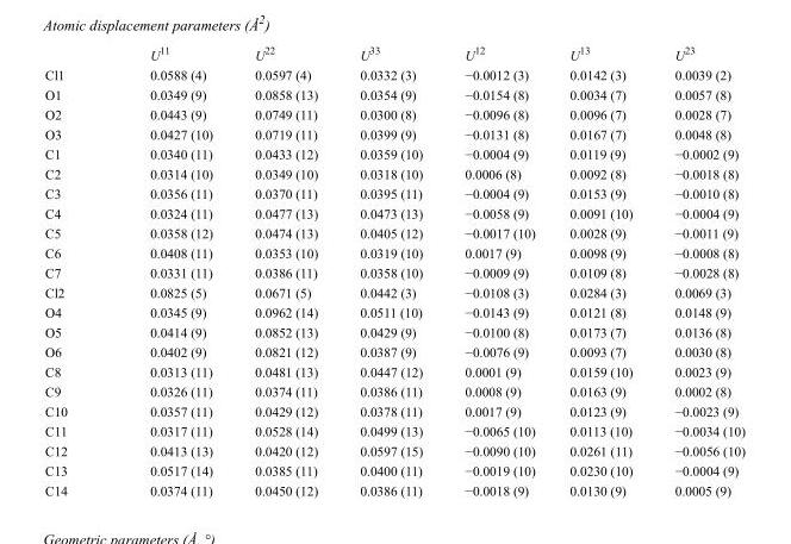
<table><thead><tr><td></td><td>U<sup>11</sup></td><td>U<sup>22</sup></td><td>U<sup>33</sup></td><td>U<sup>12</sup></td><td>U<sup>13</sup></td><td>U<sup>23</sup></td></tr></thead><tbody><tr><td>Cl1</td><td>0.0588 (4)</td><td>0.0597 (4)</td><td>0.0332 (3)</td><td>−0.0012 (3)</td><td>0.0142 (3)</td><td>0.0039 (2)</td></tr><tr><td>O1</td><td>0.0349 (9)</td><td>0.0858 (13)</td><td>0.0354 (9)</td><td>−0.0154 (8)</td><td>0.0034 (7)</td><td>0.0057 (8)</td></tr><tr><td>O2</td><td>0.0443 (9)</td><td>0.0749 (11)</td><td>0.0300 (8)</td><td>−0.0096 (8)</td><td>0.0096 (7)</td><td>0.0028 (7)</td></tr><tr><td>O3</td><td>0.0427 (10)</td><td>0.0719 (11)</td><td>0.0399 (9)</td><td>−0.0131 (8)</td><td>0.0167 (7)</td><td>0.0048 (8)</td></tr><tr><td>C1</td><td>0.0340 (11)</td><td>0.0433 (12)</td><td>0.0359 (10)</td><td>−0.0004 (9)</td><td>0.0119 (9)</td><td>−0.0002 (9)</td></tr><tr><td>C2</td><td>0.0314 (10)</td><td>0.0349 (10)</td><td>0.0318 (10)</td><td>0.0006 (8)</td><td>0.0092 (8)</td><td>−0.0018 (8)</td></tr><tr><td>C3</td><td>0.0356 (11)</td><td>0.0370 (11)</td><td>0.0395 (11)</td><td>−0.0004 (9)</td><td>0.0153 (9)</td><td>−0.0010 (8)</td></tr><tr><td>C4</td><td>0.0324 (11)</td><td>0.0477 (13)</td><td>0.0473 (13)</td><td>−0.0058 (9)</td><td>0.0091 (10)</td><td>−0.0004 (9)</td></tr><tr><td>C5</td><td>0.0358 (12)</td><td>0.0474 (13)</td><td>0.0405 (12)</td><td>−0.0017 (10)</td><td>0.0028 (9)</td><td>−0.0011 (9)</td></tr><tr><td>C6</td><td>0.0408 (11)</td><td>0.0353 (10)</td><td>0.0319 (10)</td><td>0.0017 (9)</td><td>0.0098 (9)</td><td>−0.0008 (8)</td></tr><tr><td>C7</td><td>0.0331 (11)</td><td>0.0386 (11)</td><td>0.0358 (10)</td><td>−0.0009 (9)</td><td>0.0109 (8)</td><td>−0.0028 (8)</td></tr><tr><td>Cl2</td><td>0.0825 (5)</td><td>0.0671 (5)</td><td>0.0442 (3)</td><td>−0.0108 (3)</td><td>0.0284 (3)</td><td>0.0069 (3)</td></tr><tr><td>O4</td><td>0.0345 (9)</td><td>0.0962 (14)</td><td>0.0511 (10)</td><td>−0.0143 (9)</td><td>0.0121 (8)</td><td>0.0148 (9)</td></tr><tr><td>O5</td><td>0.0414 (9)</td><td>0.0852 (13)</td><td>0.0429 (9)</td><td>−0.0100 (8)</td><td>0.0173 (7)</td><td>0.0136 (8)</td></tr><tr><td>O6</td><td>0.0402 (9)</td><td>0.0821 (12)</td><td>0.0387 (9)</td><td>−0.0076 (9)</td><td>0.0093 (7)</td><td>0.0030 (8)</td></tr><tr><td>C8</td><td>0.0313 (11)</td><td>0.0481 (13)</td><td>0.0447 (12)</td><td>0.0001 (9)</td><td>0.0159 (10)</td><td>0.0023 (9)</td></tr><tr><td>C9</td><td>0.0326 (11)</td><td>0.0374 (11)</td><td>0.0386 (11)</td><td>0.0008 (9)</td><td>0.0163 (9)</td><td>0.0002 (8)</td></tr><tr><td>C10</td><td>0.0357 (11)</td><td>0.0429 (12)</td><td>0.0378 (11)</td><td>0.0017 (9)</td><td>0.0123 (9)</td><td>−0.0023 (9)</td></tr><tr><td>C11</td><td>0.0317 (11)</td><td>0.0528 (14)</td><td>0.0499 (13)</td><td>−0.0065 (10)</td><td>0.0113 (10)</td><td>−0.0034 (10)</td></tr><tr><td>C12</td><td>0.0413 (13)</td><td>0.0420 (12)</td><td>0.0597 (15)</td><td>−0.0090 (10)</td><td>0.0261 (11)</td><td>−0.0056 (10)</td></tr><tr><td>C13</td><td>0.0517 (14)</td><td>0.0385 (11)</td><td>0.0400 (11)</td><td>−0.0019 (10)</td><td>0.0230 (10)</td><td>−0.0004 (9)</td></tr><tr><td>C14</td><td>0.0374 (11)</td><td>0.0450 (12)</td><td>0.0386 (11)</td><td>−0.0018 (9)</td><td>0.0130 (9)</td><td>0.0005 (9)</td></tr></tbody></table>